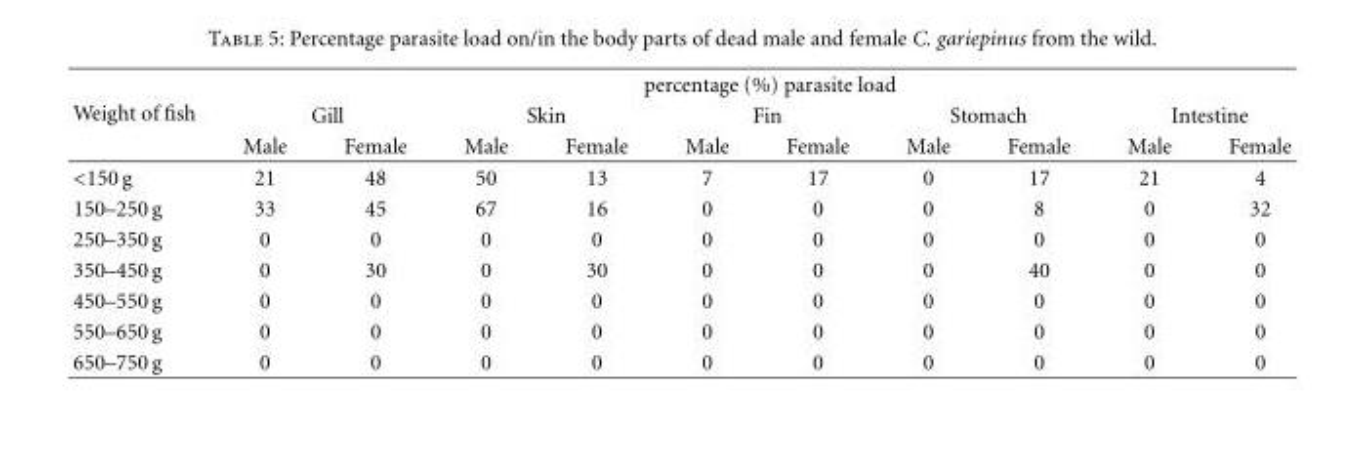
<table><thead><tr><td rowspan="3">Weight of fish</td><td colspan="10">percentage (%) parasite load</td></tr><tr><td colspan="2">Gill</td><td colspan="2">Skin</td><td colspan="2">Fin</td><td colspan="2">Stomach</td><td colspan="2">Intestine</td></tr><tr><td>Male</td><td>Female</td><td>Male</td><td>Female</td><td>Male</td><td>Female</td><td>Male</td><td>Female</td><td>Male</td><td>Female</td></tr></thead><tbody><tr><td>&lt;150 g</td><td>21</td><td>48</td><td>50</td><td>13</td><td>7</td><td>17</td><td>0</td><td>17</td><td>21</td><td>4</td></tr><tr><td>150–250 g</td><td>33</td><td>45</td><td>67</td><td>16</td><td>0</td><td>0</td><td>0</td><td>8</td><td>0</td><td>32</td></tr><tr><td>250–350 g</td><td>0</td><td>0</td><td>0</td><td>0</td><td>0</td><td>0</td><td>0</td><td>0</td><td>0</td><td>0</td></tr><tr><td>350–450 g</td><td>0</td><td>30</td><td>0</td><td>30</td><td>0</td><td>0</td><td>0</td><td>40</td><td>0</td><td>0</td></tr><tr><td>450–550 g</td><td>0</td><td>0</td><td>0</td><td>0</td><td>0</td><td>0</td><td>0</td><td>0</td><td>0</td><td>0</td></tr><tr><td>550–650 g</td><td>0</td><td>0</td><td>0</td><td>0</td><td>0</td><td>0</td><td>0</td><td>0</td><td>0</td><td>0</td></tr><tr><td>650–750 g</td><td>0</td><td>0</td><td>0</td><td>0</td><td>0</td><td>0</td><td>0</td><td>0</td><td>0</td><td>0</td></tr></tbody></table>